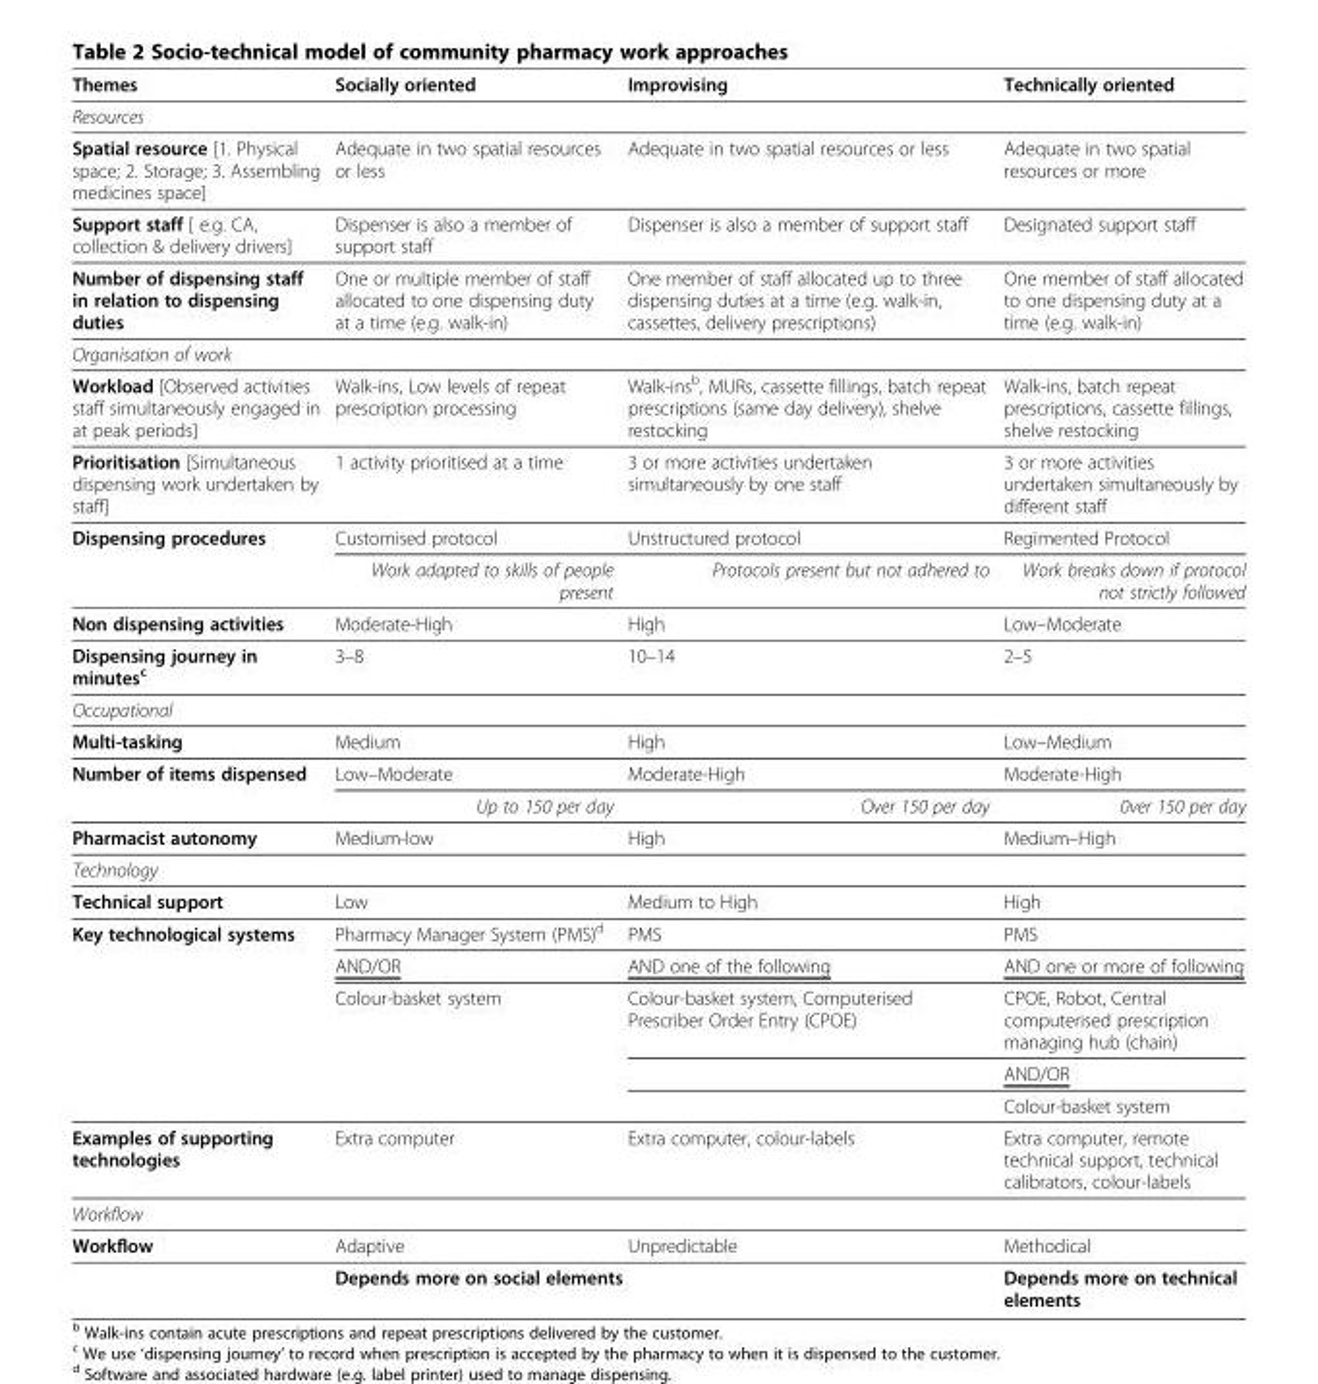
<table><thead><tr><td>Themes</td><td>Socially oriented</td><td>Improvising</td><td>Technically oriented</td></tr></thead><tbody><tr><td colspan="4">Resources</td></tr><tr><td>Spatial resource [1. Physical space; 2. Storage; 3. Assembling medicines space]</td><td>Adequate in two spatial resources or less</td><td>Adequate in two spatial resources or less</td><td>Adequate in two spatial resources or more</td></tr><tr><td>Support staff [ e.g. CA, collection &amp; delivery drivers]</td><td>Dispenser is also a member of support staff</td><td>Dispenser is also a member of support staff</td><td>Designated support staff</td></tr><tr><td>Number of dispensing staff in relation to dispensing duties</td><td>One or multiple member of staff allocated to one dispensing duty at a time (e.g. walk-in)</td><td>One member of staff allocated up to three dispensing duties at a time (e.g. walk-in, cassettes, delivery prescriptions)</td><td>One member of staff allocated to one dispensing duty at a time (e.g. walk-in)</td></tr><tr><td colspan="4">Organisation of work</td></tr><tr><td>Workload [Observed activities staff simultaneously engaged in at peak periods]</td><td>Walk-ins, Low levels of repeat prescription processing</td><td>Walk-ins<sup>b</sup>, MURs, cassette fillings, batch repeat prescriptions (same day delivery), shelve restocking</td><td>Walk-ins, batch repeat prescriptions, cassette fillings, shelve restocking</td></tr><tr><td>Prioritisation [Simultaneous dispensing work undertaken by staff]</td><td>1 activity prioritised at a time</td><td>3 or more activities undertaken simultaneously by one staff</td><td>3 or more activities undertaken simultaneously by different staff</td></tr><tr><td rowspan="2">Dispensing procedures</td><td>Customised protocol</td><td>Unstructured protocol</td><td>Regimented Protocol</td></tr><tr><td>Work adapted to skills of people present</td><td>Protocols present but not adhered to</td><td>Work breaks down if protocol not strictly followed</td></tr><tr><td>Non dispensing activities</td><td>Moderate-High</td><td>High</td><td>Low–Moderate</td></tr><tr><td>Dispensing journey in minutes<sup>c</sup></td><td>3–8</td><td>10–14</td><td>2–5</td></tr><tr><td colspan="4">Occupational</td></tr><tr><td>Multi-tasking</td><td>Medium</td><td>High</td><td>Low–Medium</td></tr><tr><td rowspan="2">Number of items dispensed</td><td>Low–Moderate</td><td>Moderate-High</td><td>Moderate-High</td></tr><tr><td>Up to 150 per day</td><td>Over 150 per day</td><td>0ver 150 per day</td></tr><tr><td>Pharmacist autonomy</td><td>Medium-low</td><td>High</td><td>Medium–High</td></tr><tr><td colspan="4">Technology</td></tr><tr><td>Technical support</td><td>Low</td><td>Medium to High</td><td>High</td></tr><tr><td rowspan="5">Key technological systems</td><td>Pharmacy Manager System (PMS)<sup>d</sup></td><td>PMS</td><td>PMS</td></tr><tr><td>AND/OR</td><td>AND one of the following</td><td>AND one or more of following</td></tr><tr><td>Colour-basket system</td><td>Colour-basket system, Computerised Prescriber Order Entry (CPOE)</td><td>CPOE, Robot, Central computerised prescription managing hub (chain)</td></tr><tr><td></td><td></td><td>AND/OR</td></tr><tr><td></td><td></td><td>Colour-basket system</td></tr><tr><td>Examples of supporting technologies</td><td>Extra computer</td><td>Extra computer, colour-labels</td><td>Extra computer, remote technical support, technical calibrators, colour-labels</td></tr><tr><td colspan="4">Workflow</td></tr><tr><td rowspan="2">Workflow</td><td>Adaptive</td><td>Unpredictable</td><td>Methodical</td></tr><tr><td colspan="2">Depends more on social elements</td><td>Depends more on technical elements</td></tr></tbody></table>